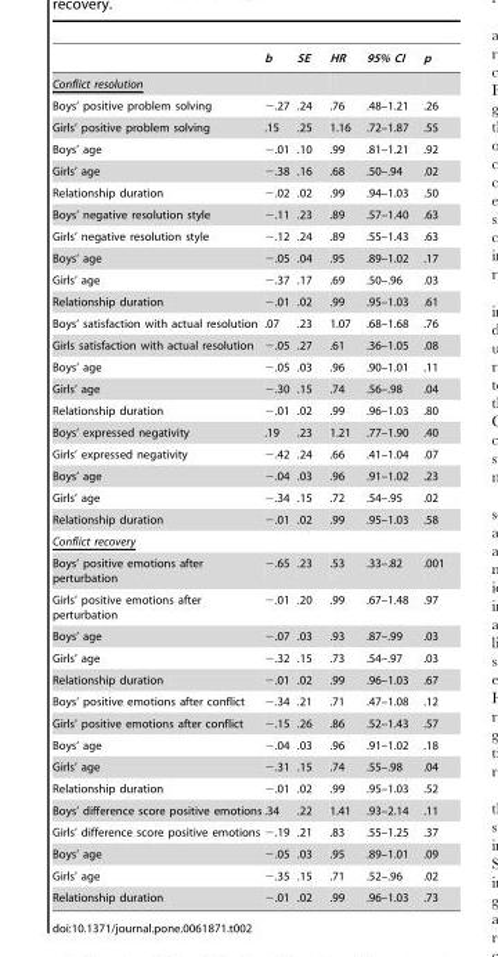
<table><thead><tr><td></td><td>b</td><td>SE</td><td>HR</td><td>95% CI</td><td>p</td></tr></thead><tbody><tr><td colspan="6">Conflict resolution</td></tr><tr><td>Boys’ positive problem solving</td><td>−.27</td><td>.24</td><td>.76</td><td>.48–1.21</td><td>.26</td></tr><tr><td>Girls’ positive problem solving</td><td>.15</td><td>.25</td><td>1.16</td><td>.72–1.87</td><td>.55</td></tr><tr><td>Boys’ age</td><td>−.01</td><td>.10</td><td>.99</td><td>.81–1.21</td><td>.92</td></tr><tr><td>Girls’ age</td><td>−.38</td><td>.16</td><td>.68</td><td>.50–.94</td><td>.02</td></tr><tr><td>Relationship duration</td><td>−.02</td><td>.02</td><td>.99</td><td>.94–1.03</td><td>.50</td></tr><tr><td>Boys’ negative resolution style</td><td>−.11</td><td>.23</td><td>.89</td><td>.57–1.40</td><td>.63</td></tr><tr><td>Girls’ negative resolution style</td><td>−.12</td><td>.24</td><td>.89</td><td>.55–1.43</td><td>.63</td></tr><tr><td>Boys’ age</td><td>−.05</td><td>.04</td><td>.95</td><td>.89–1.02</td><td>.17</td></tr><tr><td>Girls’ age</td><td>−.37</td><td>.17</td><td>.69</td><td>.50–.96</td><td>.03</td></tr><tr><td>Relationship duration</td><td>−.01</td><td>.02</td><td>.99</td><td>.95–1.03</td><td>.61</td></tr><tr><td>Boys’ satisfaction with actual resolution</td><td>.07</td><td>.23</td><td>1.07</td><td>.68–1.68</td><td>.76</td></tr><tr><td>Girls satisfaction with actual resolution</td><td>−.05</td><td>.27</td><td>.61</td><td>.36–1.05</td><td>.08</td></tr><tr><td>Boys’ age</td><td>−.05</td><td>.03</td><td>.96</td><td>.90–1.01</td><td>.11</td></tr><tr><td>Girls’ age</td><td>−.30</td><td>.15</td><td>.74</td><td>.56–.98</td><td>.04</td></tr><tr><td>Relationship duration</td><td>−.01</td><td>.02</td><td>.99</td><td>.96–1.03</td><td>.80</td></tr><tr><td>Boys’ expressed negativity</td><td>.19</td><td>.23</td><td>1.21</td><td>.77–1.90</td><td>.40</td></tr><tr><td>Girls’ expressed negativity</td><td>−.42</td><td>.24</td><td>.66</td><td>.41–1.04</td><td>.07</td></tr><tr><td>Boys’ age</td><td>−.04</td><td>.03</td><td>.96</td><td>.91–1.02</td><td>.23</td></tr><tr><td>Girls’ age</td><td>−.34</td><td>.15</td><td>.72</td><td>.54–.95</td><td>.02</td></tr><tr><td>Relationship duration</td><td>−.01</td><td>.02</td><td>.99</td><td>.95–1.03</td><td>.58</td></tr><tr><td colspan="6">Conflict recovery</td></tr><tr><td>Boys’ positive emotions after perturbation</td><td>−.65</td><td>.23</td><td>.53</td><td>.33–.82</td><td>.001</td></tr><tr><td>Girls’ positive emotions after perturbation</td><td>−.01</td><td>.20</td><td>.99</td><td>.67–1.48</td><td>.97</td></tr><tr><td>Boys’ age</td><td>−.07</td><td>.03</td><td>.93</td><td>.87–.99</td><td>.03</td></tr><tr><td>Girls’ age</td><td>−.32</td><td>.15</td><td>.73</td><td>.54–.97</td><td>.03</td></tr><tr><td>Relationship duration</td><td>−.01</td><td>.02</td><td>.99</td><td>.96–1.03</td><td>.67</td></tr><tr><td>Boys’ positive emotions after conflict</td><td>−.34</td><td>.21</td><td>.71</td><td>.47–1.08</td><td>.12</td></tr><tr><td>Girls’ positive emotions after conflict</td><td>−.15</td><td>.26</td><td>.86</td><td>.52–1.43</td><td>.57</td></tr><tr><td>Boys’ age</td><td>−.04</td><td>.03</td><td>.96</td><td>.91–1.02</td><td>.18</td></tr><tr><td>Girls’ age</td><td>−.31</td><td>.15</td><td>.74</td><td>.55–.98</td><td>.04</td></tr><tr><td>Relationship duration</td><td>−.01</td><td>.02</td><td>.99</td><td>.95–1.03</td><td>.52</td></tr><tr><td>Boys’ difference score positive emotions</td><td>.34</td><td>.22</td><td>1.41</td><td>.93–2.14</td><td>.11</td></tr><tr><td>Girls’ difference score positive emotions</td><td>−.19</td><td>.21</td><td>.83</td><td>.55–1.25</td><td>.37</td></tr><tr><td>Boys’ age</td><td>−.05</td><td>.03</td><td>.95</td><td>.89–1.01</td><td>.09</td></tr><tr><td>Girls’ age</td><td>−.35</td><td>.15</td><td>.71</td><td>.52–.96</td><td>.02</td></tr><tr><td>Relationship duration</td><td>−.01</td><td>.02</td><td>.99</td><td>.96–1.03</td><td>.73</td></tr></tbody></table>